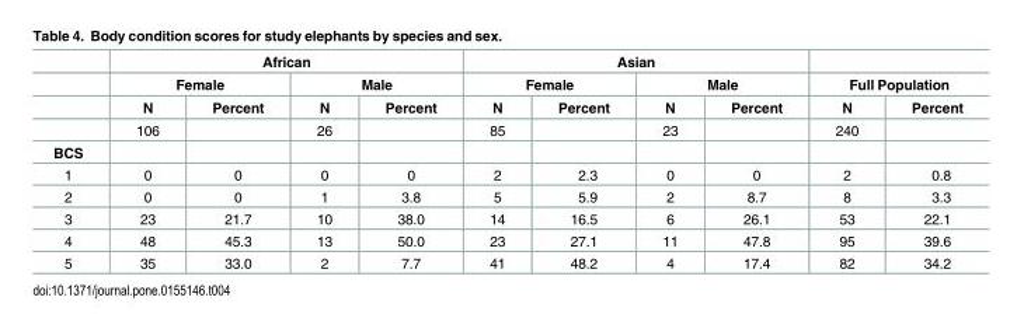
<table><thead><tr><td rowspan="3"></td><td colspan="4">African</td><td colspan="4">Asian</td><td></td><td></td></tr><tr><td colspan="2">Female</td><td colspan="2">Male</td><td colspan="2">Female</td><td colspan="2">Male</td><td colspan="2">Full Population</td></tr><tr><td>N</td><td>Percent</td><td>N</td><td>Percent</td><td>N</td><td>Percent</td><td>N</td><td>Percent</td><td>N</td><td>Percent</td></tr></thead><tbody><tr><td></td><td>106</td><td></td><td>26</td><td></td><td>85</td><td></td><td>23</td><td></td><td>240</td><td></td></tr><tr><td colspan="11">BCS</td></tr><tr><td>1</td><td>0</td><td>0</td><td>0</td><td>0</td><td>2</td><td>2.3</td><td>0</td><td>0</td><td>2</td><td>0.8</td></tr><tr><td>2</td><td>0</td><td>0</td><td>1</td><td>3.8</td><td>5</td><td>5.9</td><td>2</td><td>8.7</td><td>8</td><td>3.3</td></tr><tr><td>3</td><td>23</td><td>21.7</td><td>10</td><td>38.0</td><td>14</td><td>16.5</td><td>6</td><td>26.1</td><td>53</td><td>22.1</td></tr><tr><td>4</td><td>48</td><td>45.3</td><td>13</td><td>50.0</td><td>23</td><td>27.1</td><td>11</td><td>47.8</td><td>95</td><td>39.6</td></tr><tr><td>5</td><td>35</td><td>33.0</td><td>2</td><td>7.7</td><td>41</td><td>48.2</td><td>4</td><td>17.4</td><td>82</td><td>34.2</td></tr></tbody></table>